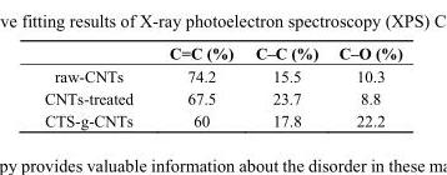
<table><thead><tr><td></td><td>C=C (%)</td><td>C–C (%)</td><td>C–O (%)</td></tr></thead><tbody><tr><td>raw-CNTs</td><td>74.2</td><td>15.5</td><td>10.3</td></tr><tr><td>CNTs-treated</td><td>67.5</td><td>23.7</td><td>8.8</td></tr><tr><td>CTS-g-CNTs</td><td>60</td><td>17.8</td><td>22.2</td></tr></tbody></table>